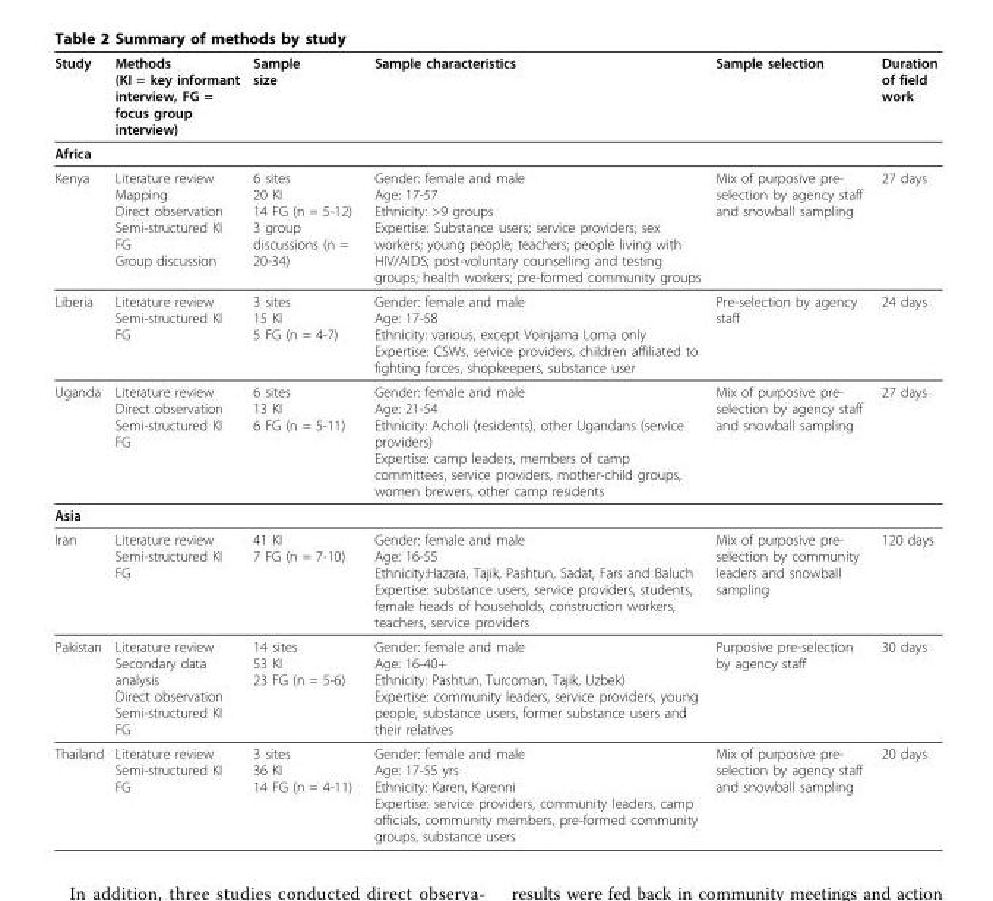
<table><thead><tr><td>Study</td><td>Methods (KI = key informant interview, FG = focus group interview)</td><td>Sample size</td><td>Sample characteristics</td><td>Sample selection</td><td>Duration of field work</td></tr></thead><tbody><tr><td colspan="6">Africa</td></tr><tr><td>Kenya</td><td>Literature review Mapping Direct observation Semi-structured KI FG Group discussion</td><td>6 sites 20 KI 14 FG (n = 5-12) 3 group discussions (n = 20-34)</td><td>Gender: female and male Age: 17-57 Ethnicity: &gt;9 groups Expertise: Substance users; service providers; sex workers; young people; teachers; people living with HIV/AIDS; post-voluntary counselling and testing groups; health workers; pre-formed community groups</td><td>Mix of purposive pre- selection by agency staff and snowball sampling</td><td>27 days</td></tr><tr><td>Liberia</td><td>Literature review Semi-structured KI FG</td><td>3 sites 15 KI 5 FG (n = 4-7)</td><td>Gender: female and male Age: 17-58 Ethnicity: various, except Voinjama Loma only Expertise: CSWs, service providers, children affiliated to fighting forces, shopkeepers, substance user</td><td>Pre-selection by agency staff</td><td>24 days</td></tr><tr><td>Uganda</td><td>Literature review Direct observation Semi-structured KI FG</td><td>6 sites 13 KI 6 FG (n = 5-11)</td><td>Gender: female and male Age: 21-54 Ethnicity: Acholi (residents), other Ugandans (service providers) Expertise: camp leaders, members of camp committees, service providers, mother-child groups, women brewers, other camp residents</td><td>Mix of purposive pre- selection by agency staff and snowball sampling</td><td>27 days</td></tr><tr><td colspan="6">Asia</td></tr><tr><td>Iran</td><td>Literature review Semi-structured KI FG</td><td>41 KI 7 FG (n = 7-10)</td><td>Gender: female and male Age: 16-55 Ethnicity:Hazara, Tajik, Pashtun, Sadat, Fars and Baluch Expertise: substance users, service providers, students, female heads of households, construction workers, teachers, service providers</td><td>Mix of purposive pre- selection by community leaders and snowball sampling</td><td>120 days</td></tr><tr><td>Pakistan</td><td>Literature review Secondary data analysis Direct observation Semi-structured KI FG</td><td>14 sites 53 KI 23 FG (n = 5-6)</td><td>Gender: female and male Age: 16-40+ Ethnicity: Pashtun, Turcoman, Tajik, Uzbek) Expertise: community leaders, service providers, young people, substance users, former substance users and their relatives</td><td>Purposive pre-selection by agency staff</td><td>30 days</td></tr><tr><td>Thailand</td><td>Literature review Semi-structured KI FG</td><td>3 sites 36 KI 14 FG (n = 4-11)</td><td>Gender: female and male Age: 17-55 yrs Ethnicity: Karen, Karenni Expertise: service providers, community leaders, camp officials, community members, pre-formed community groups, substance users</td><td>Mix of purposive pre- selection by agency staff and snowball sampling</td><td>20 days</td></tr></tbody></table>